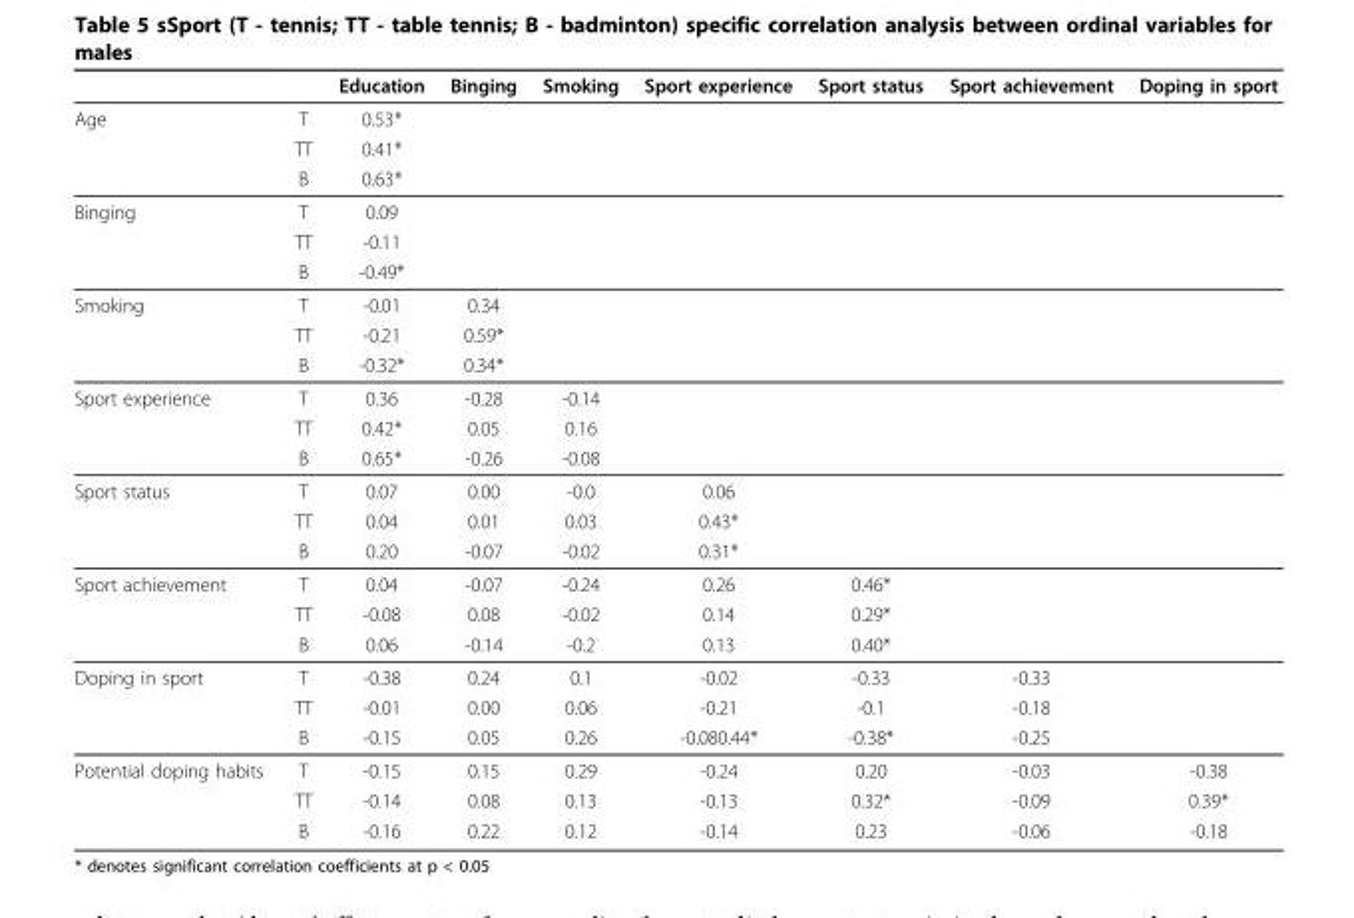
<table><thead><tr><td></td><td></td><td>Education</td><td>Binging</td><td>Smoking</td><td>Sport experience</td><td>Sport status</td><td>Sport achievement</td><td>Doping in sport</td></tr></thead><tbody><tr><td rowspan="3">Age</td><td>T</td><td>0.53*</td><td></td><td></td><td></td><td></td><td></td><td></td></tr><tr><td>TT</td><td>0.41*</td><td></td><td></td><td></td><td></td><td></td><td></td></tr><tr><td>B</td><td>0.63*</td><td></td><td></td><td></td><td></td><td></td><td></td></tr><tr><td rowspan="3">Binging</td><td>T</td><td>0.09</td><td></td><td></td><td></td><td></td><td></td><td></td></tr><tr><td>TT</td><td>-0.11</td><td></td><td></td><td></td><td></td><td></td><td></td></tr><tr><td>B</td><td>-0.49*</td><td></td><td></td><td></td><td></td><td></td><td></td></tr><tr><td rowspan="3">Smoking</td><td>T</td><td>-0.01</td><td>0.34</td><td></td><td></td><td></td><td></td><td></td></tr><tr><td>TT</td><td>-0.21</td><td>0.59*</td><td></td><td></td><td></td><td></td><td></td></tr><tr><td>B</td><td>-0.32*</td><td>0.34*</td><td></td><td></td><td></td><td></td><td></td></tr><tr><td rowspan="3">Sport experience</td><td>T</td><td>0.36</td><td>-0.28</td><td>-0.14</td><td></td><td></td><td></td><td></td></tr><tr><td>TT</td><td>0.42*</td><td>0.05</td><td>0.16</td><td></td><td></td><td></td><td></td></tr><tr><td>B</td><td>0.65*</td><td>-0.26</td><td>-0.08</td><td></td><td></td><td></td><td></td></tr><tr><td rowspan="3">Sport status</td><td>T</td><td>0.07</td><td>0.00</td><td>-0.0</td><td>0.06</td><td></td><td></td><td></td></tr><tr><td>TT</td><td>0.04</td><td>0.01</td><td>0.03</td><td>0.43*</td><td></td><td></td><td></td></tr><tr><td>B</td><td>0.20</td><td>-0.07</td><td>-0.02</td><td>0.31*</td><td></td><td></td><td></td></tr><tr><td rowspan="3">Sport achievement</td><td>T</td><td>0.04</td><td>-0.07</td><td>-0.24</td><td>0.26</td><td>0.46*</td><td></td><td></td></tr><tr><td>TT</td><td>-0.08</td><td>0.08</td><td>-0.02</td><td>0.14</td><td>0.29*</td><td></td><td></td></tr><tr><td>B</td><td>0.06</td><td>-0.14</td><td>-0.2</td><td>0.13</td><td>0.40*</td><td></td><td></td></tr><tr><td rowspan="3">Doping in sport</td><td>T</td><td>-0.38</td><td>0.24</td><td>0.1</td><td>-0.02</td><td>-0.33</td><td>-0.33</td><td></td></tr><tr><td>TT</td><td>-0.01</td><td>0.00</td><td>0.06</td><td>-0.21</td><td>-0.1</td><td>-0.18</td><td></td></tr><tr><td>B</td><td>-0.15</td><td>0.05</td><td>0.26</td><td>-0.080.44*</td><td>-0.38*</td><td>-0.25</td><td></td></tr><tr><td rowspan="3">Potential doping habits</td><td>T</td><td>-0.15</td><td>0.15</td><td>0.29</td><td>-0.24</td><td>0.20</td><td>-0.03</td><td>-0.38</td></tr><tr><td>TT</td><td>-0.14</td><td>0.08</td><td>0.13</td><td>-0.13</td><td>0.32*</td><td>-0.09</td><td>0.39*</td></tr><tr><td>B</td><td>-0.16</td><td>0.22</td><td>0.12</td><td>-0.14</td><td>0.23</td><td>-0.06</td><td>-0.18</td></tr></tbody></table>